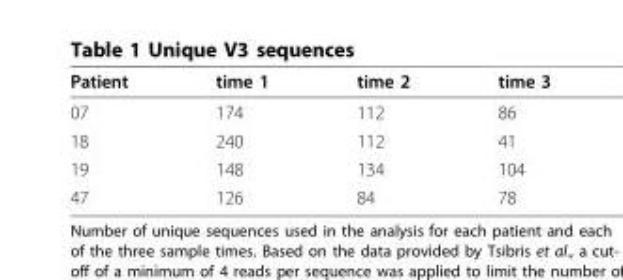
<table><thead><tr><td>Patient</td><td>time 1</td><td>time 2</td><td>time 3</td></tr></thead><tbody><tr><td>07</td><td>174</td><td>112</td><td>86</td></tr><tr><td>18</td><td>240</td><td>112</td><td>41</td></tr><tr><td>19</td><td>148</td><td>134</td><td>104</td></tr><tr><td>47</td><td>126</td><td>84</td><td>78</td></tr></tbody></table>